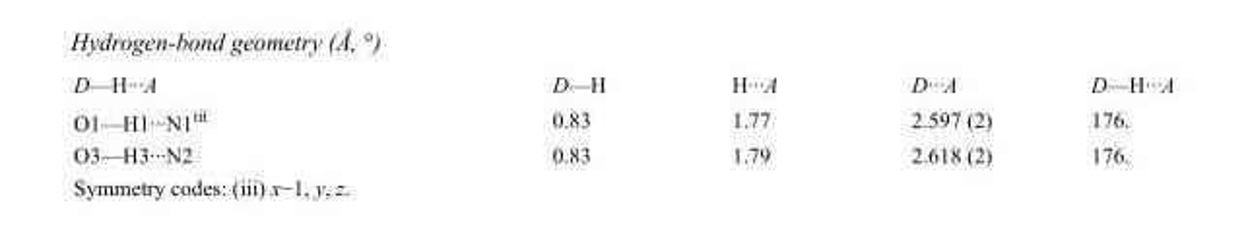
<table><tbody><tr><td>D—H···A</td><td>D—H</td><td>H···A</td><td>D···A</td><td>D—H···A</td></tr><tr><td>O1—H1···N1<sup>iii</sup></td><td>0.83</td><td>1.77</td><td>2.597 (2)</td><td>176.</td></tr><tr><td>O3—H3···N2</td><td>0.83</td><td>1.79</td><td>2.618 (2)</td><td>176.</td></tr></tbody></table>